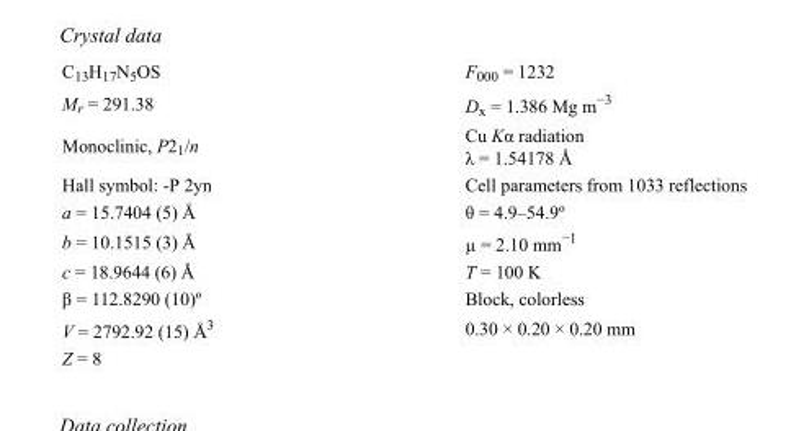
<table><tbody><tr><td>C<sub>13</sub>H<sub>17</sub>N<sub>5</sub>OS</td><td>F000 = 1232</td></tr><tr><td>M<sub>r</sub> = 291.38</td><td>D<sub>x</sub> = 1.386 Mg m<sup>−3</sup></td></tr><tr><td>Monoclinic, P2<sub>1</sub>/n</td><td>Cu Kα radiation λ = 1.54178 Å</td></tr><tr><td>Hall symbol: -P 2yn</td><td>Cell parameters from 1033 reflections</td></tr><tr><td>a = 15.7404 (5) Å</td><td>θ = 4.9–54.9º</td></tr><tr><td>b = 10.1515 (3) Å</td><td>µ = 2.10 mm<sup>−1</sup></td></tr><tr><td>c = 18.9644 (6) Å</td><td>T = 100 K</td></tr><tr><td>β = 112.8290 (10)º</td><td>Block, colorless</td></tr><tr><td>V = 2792.92 (15) Å<sup>3</sup></td><td>0.30 × 0.20 × 0.20 mm</td></tr><tr><td>Z = 8</td><td></td></tr></tbody></table>